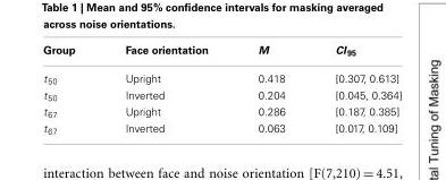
<table><thead><tr><td>Group</td><td>Face orientation</td><td>M</td><td>CI <sub>95</sub></td></tr></thead><tbody><tr><td>t<sub>50</sub></td><td>Upright</td><td>0.418</td><td>[0.307, 0.613]</td></tr><tr><td>t<sub>50</sub></td><td>Inverted</td><td>0.204</td><td>[0.045, 0.364]</td></tr><tr><td>t<sub>67</sub></td><td>Upright</td><td>0.286</td><td>[0.187, 0.385]</td></tr><tr><td>t<sub>67</sub></td><td>Inverted</td><td>0.063</td><td>[0.017, 0.109]</td></tr></tbody></table>